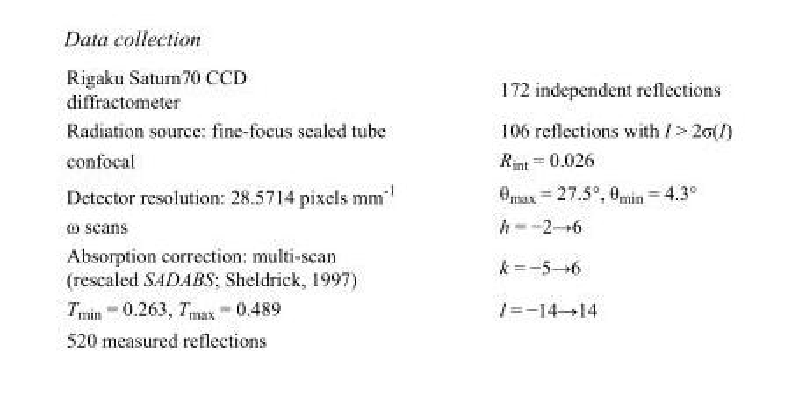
<table><tbody><tr><td>Rigaku Saturn70 CCD diffractometer</td><td>172 independent reflections</td></tr><tr><td>Radiation source: fine-focus sealed tube</td><td>106 reflections with I &gt; 2σ(I)</td></tr><tr><td>confocal</td><td>R<sub>int</sub> = 0.026</td></tr><tr><td>Detector resolution: 28.5714 pixels mm<sup>-1</sup></td><td>θ<sub>max</sub> = 27.5°, θ<sub>min</sub> = 4.3°</td></tr><tr><td>ω scans</td><td>h = −2→6</td></tr><tr><td>Absorption correction: multi-scan (rescaled SADABS; Sheldrick, 1997)</td><td>k = −5→6</td></tr><tr><td>T<sub>min</sub> = 0.263, T<sub>max</sub> = 0.489</td><td>l = −14→14</td></tr><tr><td>520 measured reflections</td><td></td></tr></tbody></table>